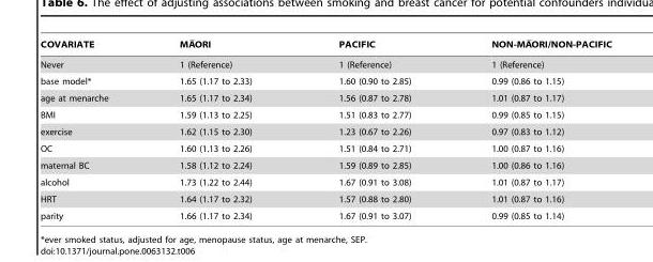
<table><thead><tr><td>COVARIATE</td><td>MA ORI</td><td>PACIFIC</td><td>NON-MA ORI/NON-PACIFIC</td></tr></thead><tbody><tr><td>Never</td><td>1 (Reference)</td><td>1 (Reference)</td><td>1 (Reference)</td></tr><tr><td>base model*</td><td>1.65 (1.17 to 2.33)</td><td>1.60 (0.90 to 2.85)</td><td>0.99 (0.86 to 1.15)</td></tr><tr><td>age at menarche</td><td>1.65 (1.17 to 2.34)</td><td>1.56 (0.87 to 2.78)</td><td>1.01 (0.87 to 1.17)</td></tr><tr><td>BMI</td><td>1.59 (1.13 to 2.25)</td><td>1.51 (0.83 to 2.77)</td><td>0.99 (0.85 to 1.15)</td></tr><tr><td>exercise</td><td>1.62 (1.15 to 2.30)</td><td>1.23 (0.67 to 2.26)</td><td>0.97 (0.83 to 1.12)</td></tr><tr><td>OC</td><td>1.60 (1.13 to 2.26)</td><td>1.51 (0.84 to 2.71)</td><td>1.00 (0.87 to 1.16)</td></tr><tr><td>maternal BC</td><td>1.58 (1.12 to 2.24)</td><td>1.59 (0.89 to 2.85)</td><td>1.00 (0.86 to 1.16)</td></tr><tr><td>alcohol</td><td>1.73 (1.22 to 2.44)</td><td>1.67 (0.91 to 3.08)</td><td>1.01 (0.87 to 1.17)</td></tr><tr><td>HRT</td><td>1.64 (1.17 to 2.32)</td><td>1.57 (0.88 to 2.80)</td><td>1.01 (0.87 to 1.16)</td></tr><tr><td>parity</td><td>1.66 (1.17 to 2.34)</td><td>1.67 (0.91 to 3.07)</td><td>0.99 (0.85 to 1.14)</td></tr></tbody></table>